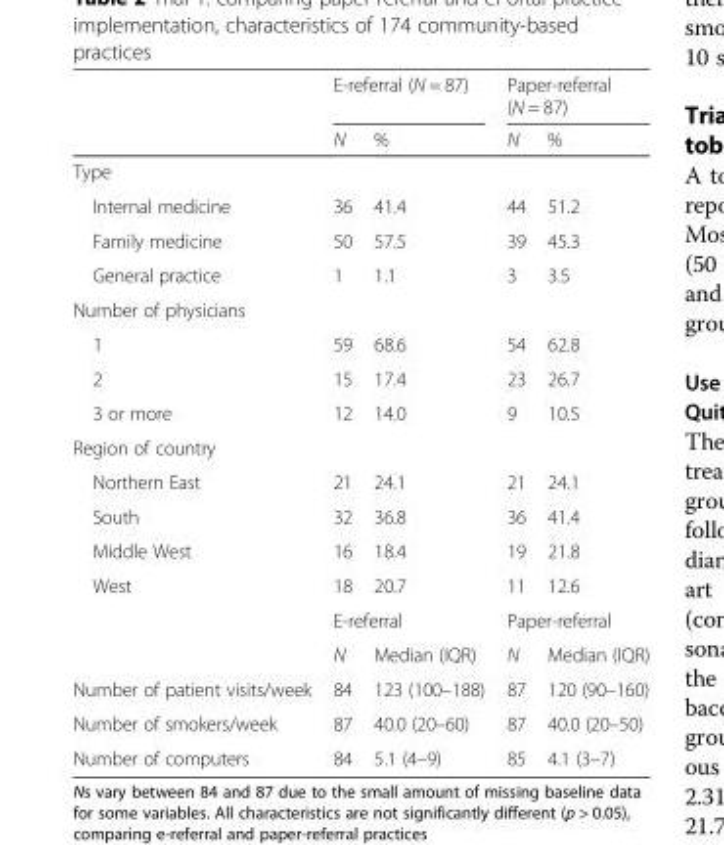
<table><thead><tr><td rowspan="2"></td><td colspan="2">E-referral (N = 87)</td><td colspan="2">Paper-referral (N = 87)</td></tr><tr><td>N</td><td>%</td><td>N</td><td>%</td></tr></thead><tbody><tr><td colspan="5">Type</td></tr><tr><td>Internal medicine</td><td>36</td><td>41.4</td><td>44</td><td>51.2</td></tr><tr><td>Family medicine</td><td>50</td><td>57.5</td><td>39</td><td>45.3</td></tr><tr><td>General practice</td><td>1</td><td>1.1</td><td>3</td><td>3.5</td></tr><tr><td colspan="5">Number of physicians</td></tr><tr><td>1</td><td>59</td><td>68.6</td><td>54</td><td>62.8</td></tr><tr><td>2</td><td>15</td><td>17.4</td><td>23</td><td>26.7</td></tr><tr><td>3 or more</td><td>12</td><td>14.0</td><td>9</td><td>10.5</td></tr><tr><td colspan="5">Region of country</td></tr><tr><td>Northern East</td><td>21</td><td>24.1</td><td>21</td><td>24.1</td></tr><tr><td>South</td><td>32</td><td>36.8</td><td>36</td><td>41.4</td></tr><tr><td>Middle West</td><td>16</td><td>18.4</td><td>19</td><td>21.8</td></tr><tr><td rowspan="3">West</td><td>18</td><td>20.7</td><td>11</td><td>12.6</td></tr><tr><td colspan="2">E-referral</td><td colspan="2">Paper-referral</td></tr><tr><td>N</td><td>Median (IQR)</td><td>N</td><td>Median (IQR)</td></tr><tr><td>Number of patient visits/week</td><td>84</td><td>123 (100–188)</td><td>87</td><td>120 (90–160)</td></tr><tr><td>Number of smokers/week</td><td>87</td><td>40.0 (20–60)</td><td>87</td><td>40.0 (20–50)</td></tr><tr><td>Number of computers</td><td>84</td><td>5.1 (4–9)</td><td>85</td><td>4.1 (3–7)</td></tr></tbody></table>